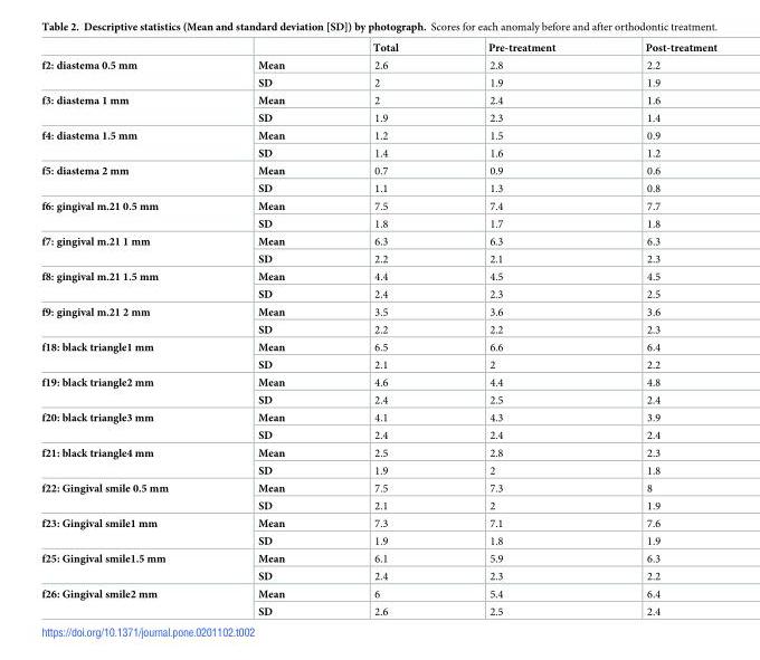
<table><thead><tr><td></td><td></td><td>Total</td><td>Pre-treatment</td><td>Post-treatment</td></tr></thead><tbody><tr><td rowspan="2">f2: diastema 0.5 mm</td><td>Mean</td><td>2.6</td><td>2.8</td><td>2.2</td></tr><tr><td>SD</td><td>2</td><td>1.9</td><td>1.9</td></tr><tr><td rowspan="2">f3: diastema 1 mm</td><td>Mean</td><td>2</td><td>2.4</td><td>1.6</td></tr><tr><td>SD</td><td>1.9</td><td>2.3</td><td>1.4</td></tr><tr><td rowspan="2">f4: diastema 1.5 mm</td><td>Mean</td><td>1.2</td><td>1.5</td><td>0.9</td></tr><tr><td>SD</td><td>1.4</td><td>1.6</td><td>1.2</td></tr><tr><td rowspan="2">f5: diastema 2 mm</td><td>Mean</td><td>0.7</td><td>0.9</td><td>0.6</td></tr><tr><td>SD</td><td>1.1</td><td>1.3</td><td>0.8</td></tr><tr><td rowspan="2">f6: gingival m.21 0.5 mm</td><td>Mean</td><td>7.5</td><td>7.4</td><td>7.7</td></tr><tr><td>SD</td><td>1.8</td><td>1.7</td><td>1.8</td></tr><tr><td rowspan="2">f7: gingival m.21 1 mm</td><td>Mean</td><td>6.3</td><td>6.3</td><td>6.3</td></tr><tr><td>SD</td><td>2.2</td><td>2.1</td><td>2.3</td></tr><tr><td rowspan="2">f8: gingival m.21 1.5 mm</td><td>Mean</td><td>4.4</td><td>4.5</td><td>4.5</td></tr><tr><td>SD</td><td>2.4</td><td>2.3</td><td>2.5</td></tr><tr><td rowspan="2">f9: gingival m.21 2 mm</td><td>Mean</td><td>3.5</td><td>3.6</td><td>3.6</td></tr><tr><td>SD</td><td>2.2</td><td>2.2</td><td>2.3</td></tr><tr><td rowspan="2">f18: black triangle1 mm</td><td>Mean</td><td>6.5</td><td>6.6</td><td>6.4</td></tr><tr><td>SD</td><td>2.1</td><td>2</td><td>2.2</td></tr><tr><td rowspan="2">f19: black triangle2 mm</td><td>Mean</td><td>4.6</td><td>4.4</td><td>4.8</td></tr><tr><td>SD</td><td>2.4</td><td>2.5</td><td>2.4</td></tr><tr><td rowspan="2">f20: black triangle3 mm</td><td>Mean</td><td>4.1</td><td>4.3</td><td>3.9</td></tr><tr><td>SD</td><td>2.4</td><td>2.4</td><td>2.4</td></tr><tr><td rowspan="2">f21: black triangle4 mm</td><td>Mean</td><td>2.5</td><td>2.8</td><td>2.3</td></tr><tr><td>SD</td><td>1.9</td><td>2</td><td>1.8</td></tr><tr><td rowspan="2">f22: Gingival smile 0.5 mm</td><td>Mean</td><td>7.5</td><td>7.3</td><td>8</td></tr><tr><td>SD</td><td>2.1</td><td>2</td><td>1.9</td></tr><tr><td rowspan="2">f23: Gingival smile1 mm</td><td>Mean</td><td>7.3</td><td>7.1</td><td>7.6</td></tr><tr><td>SD</td><td>1.9</td><td>1.8</td><td>1.9</td></tr><tr><td rowspan="2">f25: Gingival smile1.5 mm</td><td>Mean</td><td>6.1</td><td>5.9</td><td>6.3</td></tr><tr><td>SD</td><td>2.4</td><td>2.3</td><td>2.2</td></tr><tr><td rowspan="2">f26: Gingival smile2 mm</td><td>Mean</td><td>6</td><td>5.4</td><td>6.4</td></tr><tr><td>SD</td><td>2.6</td><td>2.5</td><td>2.4</td></tr></tbody></table>